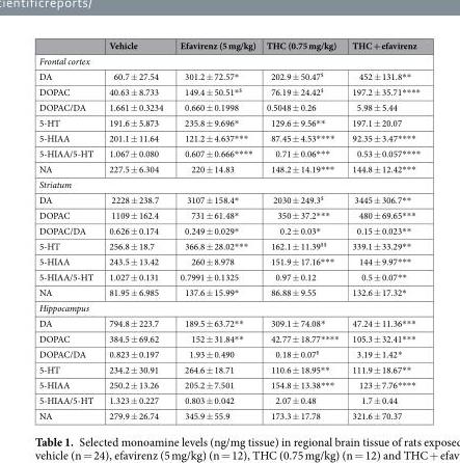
<table><thead><tr><td></td><td>Vehicle</td><td>Efavirenz (5 mg/kg)</td><td>THC (0.75 mg/kg)</td><td>THC + efavirenz</td></tr></thead><tbody><tr><td colspan="5">Frontal cortex</td></tr><tr><td>DA</td><td>60.7 ± 27.54</td><td>301.2 ± 72.57*</td><td>202.9 ± 50.47<sup>$</sup></td><td>452 ± 131.8**</td></tr><tr><td>DOPAC</td><td>40.63 ± 8.733</td><td>149.4 ± 50.51*<sup>$</sup></td><td>76.19 ± 24.42<sup>$</sup></td><td>197.2 ± 35.71****</td></tr><tr><td>DOPAC/DA</td><td>1.661 ± 0.3234</td><td>0.660 ± 0.1998</td><td>0.5048 ± 0.26</td><td>5.98 ± 5.44</td></tr><tr><td>5-HT</td><td>191.6 ± 5.873</td><td>235.8 ± 9.696*</td><td>129.6 ± 9.56**</td><td>197.1 ± 20.07</td></tr><tr><td>5-HIAA</td><td>201.1 ± 11.64</td><td>121.2 ± 4.637***</td><td>87.45 ± 4.53****</td><td>92.35 ± 3.47****</td></tr><tr><td>5-HIAA/5-HT</td><td>1.067 ± 0.080</td><td>0.607 ± 0.666****</td><td>0.71 ± 0.06***</td><td>0.53 ± 0.057****</td></tr><tr><td>NA</td><td>227.5 ± 6.304</td><td>220 ± 14.83</td><td>148.2 ± 14.19***</td><td>144.8 ± 12.42***</td></tr><tr><td colspan="5">Striatum</td></tr><tr><td>DA</td><td>2228 ± 238.7</td><td>3107 ± 158.4*</td><td>2030 ± 249.3<sup>$</sup></td><td>3445 ± 306.7**</td></tr><tr><td>DOPAC</td><td>1109 ± 162.4</td><td>731 ± 61.48*</td><td>350 ± 37.2***</td><td>480 ± 69.65***</td></tr><tr><td>DOPAC/DA</td><td>0.626 ± 0.174</td><td>0.249 ± 0.029*</td><td>0.2 ± 0.03*</td><td>0.15 ± 0.023**</td></tr><tr><td>5-HT</td><td>256.8 ± 18.7</td><td>366.8 ± 28.02***</td><td>162.1 ± 11.39<sup>$$</sup></td><td>339.1 ± 33.29**</td></tr><tr><td>5-HIAA</td><td>243.5 ± 13.42</td><td>260 ± 8.978</td><td>151.9 ± 17.16***</td><td>144 ± 9.97***</td></tr><tr><td>5-HIAA/5-HT</td><td>1.027 ± 0.131</td><td>0.7991 ± 0.1325</td><td>0.97 ± 0.12</td><td>0.5 ± 0.07**</td></tr><tr><td>NA</td><td>81.95 ± 6.985</td><td>137.6 ± 15.99*</td><td>86.88 ± 9.55</td><td>132.6 ± 17.32*</td></tr><tr><td colspan="5">Hippocampus</td></tr><tr><td>DA</td><td>794.8 ± 223.7</td><td>189.5 ± 63.72**</td><td>309.1 ± 74.08*</td><td>47.24 ± 11.36***</td></tr><tr><td>DOPAC</td><td>384.5 ± 69.62</td><td>152 ± 31.84**</td><td>42.77 ± 18.77****</td><td>105.3 ± 32.41***</td></tr><tr><td>DOPAC/DA</td><td>0.823 ± 0.197</td><td>1.93 ± 0.490</td><td>0.18 ± 0.07<sup>$</sup></td><td>3.19 ± 1.42*</td></tr><tr><td>5-HT</td><td>234.2 ± 30.91</td><td>264.6 ± 18.71</td><td>110.6 ± 18.95**</td><td>111.9 ± 18.67**</td></tr><tr><td>5-HIAA</td><td>250.2 ± 13.26</td><td>205.2 ± 7.501</td><td>154.8 ± 13.38***</td><td>123 ± 7.76****</td></tr><tr><td>5-HIAA/5-HT</td><td>1.323 ± 0.227</td><td>0.803 ± 0.042</td><td>2.07 ± 0.48</td><td>1.7 ± 0.44</td></tr><tr><td>NA</td><td>279.9 ± 26.74</td><td>345.9 ± 55.9</td><td>173.3 ± 17.78</td><td>321.6 ± 70.37</td></tr></tbody></table>